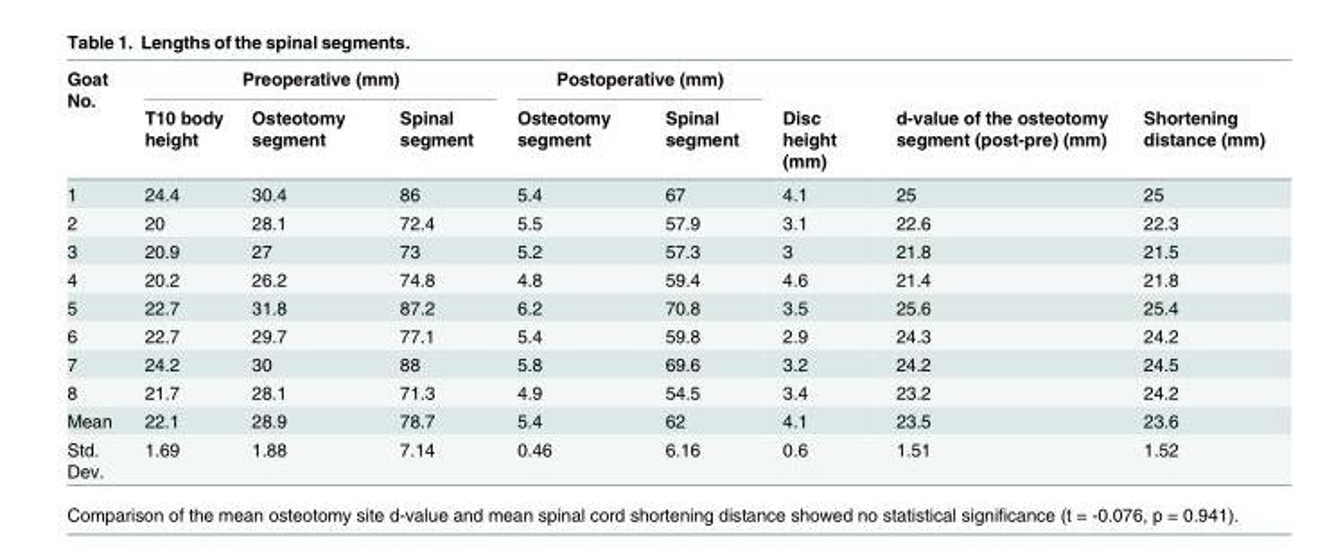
<table><thead><tr><td rowspan="2">Goat No.</td><td colspan="3">Preoperative (mm)</td><td colspan="2">Postoperative (mm)</td><td rowspan="2">Disc height (mm)</td><td rowspan="2">d-value of the osteotomy segment (post-pre) (mm)</td><td rowspan="2">Shortening distance (mm)</td></tr><tr><td>T10 body height</td><td>Osteotomy segment</td><td>Spinal segment</td><td>Osteotomy segment</td><td>Spinal segment</td></tr></thead><tbody><tr><td>1</td><td>24.4</td><td>30.4</td><td>86</td><td>5.4</td><td>67</td><td>4.1</td><td>25</td><td>25</td></tr><tr><td>2</td><td>20</td><td>28.1</td><td>72.4</td><td>5.5</td><td>57.9</td><td>3.1</td><td>22.6</td><td>22.3</td></tr><tr><td>3</td><td>20.9</td><td>27</td><td>73</td><td>5.2</td><td>57.3</td><td>3</td><td>21.8</td><td>21.5</td></tr><tr><td>4</td><td>20.2</td><td>26.2</td><td>74.8</td><td>4.8</td><td>59.4</td><td>4.6</td><td>21.4</td><td>21.8</td></tr><tr><td>5</td><td>22.7</td><td>31.8</td><td>87.2</td><td>6.2</td><td>70.8</td><td>3.5</td><td>25.6</td><td>25.4</td></tr><tr><td>6</td><td>22.7</td><td>29.7</td><td>77.1</td><td>5.4</td><td>59.8</td><td>2.9</td><td>24.3</td><td>24.2</td></tr><tr><td>7</td><td>24.2</td><td>30</td><td>88</td><td>5.8</td><td>69.6</td><td>3.2</td><td>24.2</td><td>24.5</td></tr><tr><td>8</td><td>21.7</td><td>28.1</td><td>71.3</td><td>4.9</td><td>54.5</td><td>3.4</td><td>23.2</td><td>24.2</td></tr><tr><td>Mean</td><td>22.1</td><td>28.9</td><td>78.7</td><td>5.4</td><td>62</td><td>4.1</td><td>23.5</td><td>23.6</td></tr><tr><td>Std. Dev.</td><td>1.69</td><td>1.88</td><td>7.14</td><td>0.46</td><td>6.16</td><td>0.6</td><td>1.51</td><td>1.52</td></tr></tbody></table>